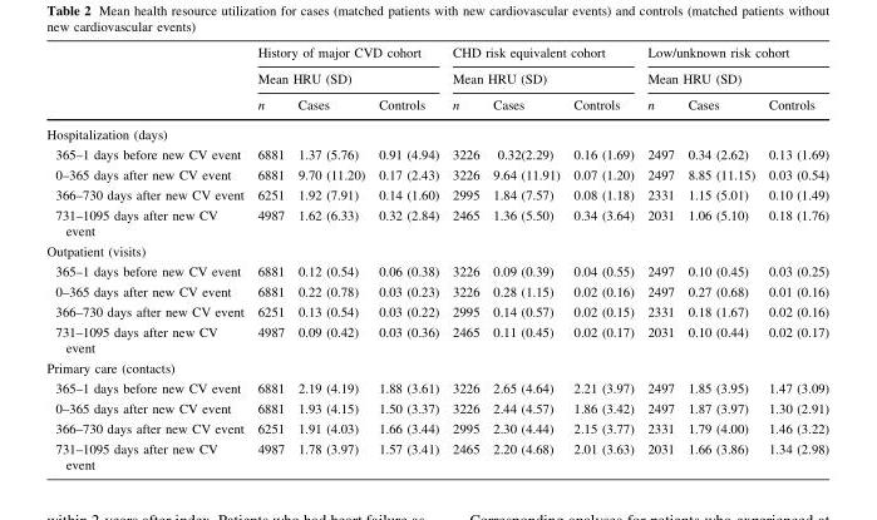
<table><thead><tr><td rowspan="3"></td><td rowspan="2" colspan="3">History of major CVD cohort Mean HRU (SD)</td><td rowspan="2" colspan="3">CHD risk equivalent cohort Mean HRU (SD)</td><td rowspan="2" colspan="3">Low/unknown risk cohort Mean HRU (SD)</td></tr><tr></tr><tr><td>n</td><td>Cases</td><td>Controls</td><td>n</td><td>Cases</td><td>Controls</td><td>n</td><td>Cases</td><td>Controls</td></tr></thead><tbody><tr><td colspan="10">Hospitalization (days)</td></tr><tr><td>365–1 days before new CV event</td><td>6881</td><td>1.37 (5.76)</td><td>0.91 (4.94)</td><td>3226</td><td>0.32(2.29)</td><td>0.16 (1.69)</td><td>2497</td><td>0.34 (2.62)</td><td>0.13 (1.69)</td></tr><tr><td>0–365 days after new CV event</td><td>6881</td><td>9.70 (11.20)</td><td>0.17 (2.43)</td><td>3226</td><td>9.64 (11.91)</td><td>0.07 (1.20)</td><td>2497</td><td>8.85 (11.15)</td><td>0.03 (0.54)</td></tr><tr><td>366–730 days after new CV event</td><td>6251</td><td>1.92 (7.91)</td><td>0.14 (1.60)</td><td>2995</td><td>1.84 (7.57)</td><td>0.08 (1.18)</td><td>2331</td><td>1.15 (5.01)</td><td>0.10 (1.49)</td></tr><tr><td>731–1095 days after new CV event</td><td>4987</td><td>1.62 (6.33)</td><td>0.32 (2.84)</td><td>2465</td><td>1.36 (5.50)</td><td>0.34 (3.64)</td><td>2031</td><td>1.06 (5.10)</td><td>0.18 (1.76)</td></tr><tr><td colspan="10">Outpatient (visits)</td></tr><tr><td>365–1 days before new CV event</td><td>6881</td><td>0.12 (0.54)</td><td>0.06 (0.38)</td><td>3226</td><td>0.09 (0.39)</td><td>0.04 (0.55)</td><td>2497</td><td>0.10 (0.45)</td><td>0.03 (0.25)</td></tr><tr><td>0–365 days after new CV event</td><td>6881</td><td>0.22 (0.78)</td><td>0.03 (0.23)</td><td>3226</td><td>0.28 (1.15)</td><td>0.02 (0.16)</td><td>2497</td><td>0.27 (0.68)</td><td>0.01 (0.16)</td></tr><tr><td>366–730 days after new CV event</td><td>6251</td><td>0.13 (0.54)</td><td>0.03 (0.22)</td><td>2995</td><td>0.14 (0.57)</td><td>0.02 (0.15)</td><td>2331</td><td>0.18 (1.67)</td><td>0.02 (0.16)</td></tr><tr><td>731–1095 days after new CV event</td><td>4987</td><td>0.09 (0.42)</td><td>0.03 (0.36)</td><td>2465</td><td>0.11 (0.45)</td><td>0.02 (0.17)</td><td>2031</td><td>0.10 (0.44)</td><td>0.02 (0.17)</td></tr><tr><td colspan="10">Primary care (contacts)</td></tr><tr><td>365–1 days before new CV event</td><td>6881</td><td>2.19 (4.19)</td><td>1.88 (3.61)</td><td>3226</td><td>2.65 (4.64)</td><td>2.21 (3.97)</td><td>2497</td><td>1.85 (3.95)</td><td>1.47 (3.09)</td></tr><tr><td>0–365 days after new CV event</td><td>6881</td><td>1.93 (4.15)</td><td>1.50 (3.37)</td><td>3226</td><td>2.44 (4.57)</td><td>1.86 (3.42)</td><td>2497</td><td>1.87 (3.97)</td><td>1.30 (2.91)</td></tr><tr><td>366–730 days after new CV event</td><td>6251</td><td>1.91 (4.03)</td><td>1.66 (3.44)</td><td>2995</td><td>2.30 (4.44)</td><td>2.15 (3.77)</td><td>2331</td><td>1.79 (4.00)</td><td>1.46 (3.22)</td></tr><tr><td>731–1095 days after new CV event</td><td>4987</td><td>1.78 (3.97)</td><td>1.57 (3.41)</td><td>2465</td><td>2.20 (4.68)</td><td>2.01 (3.63)</td><td>2031</td><td>1.66 (3.86)</td><td>1.34 (2.98)</td></tr></tbody></table>